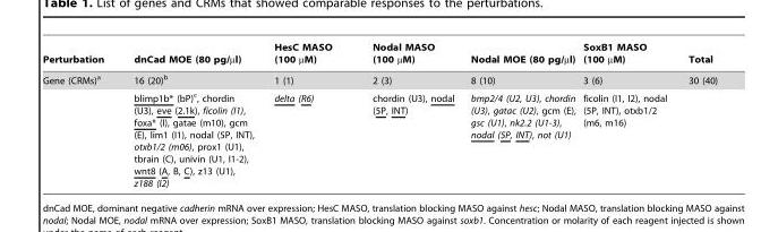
<table><thead><tr><td>Perturbation</td><td>dnCad MOE (80 pg/µl)</td><td>HesC MASO (100 µM)</td><td>Nodal MASO (100 µM)</td><td>Nodal MOE (80 pg/µl)</td><td>SoxB1 MASO (100 µM)</td><td>Total</td></tr></thead><tbody><tr><td rowspan="2">Gene (CRMs)<sup>a</sup></td><td>16 (20)<sup>b</sup></td><td>1 (1)</td><td>2 (3)</td><td>8 (10)</td><td>3 (6)</td><td>30 (40)</td></tr><tr><td>blimp1b* (bP)<sup>c</sup>, chordin (U3), eve (2.1k), ficolin (I1), foxa* (I), gatae (m10), gcm (E), lim1 (I1), nodal (5P, INT), otxb1/2 (m06), prox1 (U1), tbrain (C), univin (U1, I1-2), wnt8 (A, B, C), z13 (U1), z188 (I2)</td><td>delta (R6)</td><td>chordin (U3), nodal (5P, INT)</td><td>bmp2/4 (U2, U3), chordin (U3), gatac (U2), gcm (E), gsc (U1), nk2.2 (U1-3), nodal (5P, INT), not (U1)</td><td>ficolin (I1, I2), nodal (5P, INT), otxb1/2 (m6, m16)</td><td></td></tr></tbody></table>